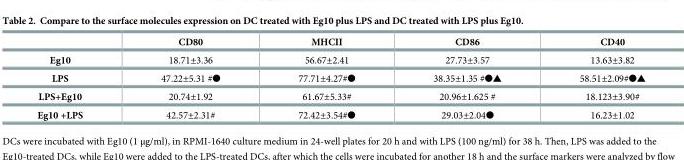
<table><thead><tr><td></td><td>CD80</td><td>MHCII</td><td>CD86</td><td>CD40</td></tr></thead><tbody><tr><td>Eg10</td><td>18.71±3.36</td><td>56.67±2.41</td><td>27.73±3.57</td><td>13.63±3.82</td></tr><tr><td>LPS</td><td>47.22±5.31 #●</td><td>77.71±4.27#●</td><td>38.35±1.35 #●▲</td><td>58.51±2.09#●▲</td></tr><tr><td>LPS+Eg10</td><td>20.74±1.92</td><td>61.67±5.33#</td><td>20.96±1.625 #</td><td>18.123±3.90#</td></tr><tr><td>Eg10 +LPS</td><td>42.57±2.31#</td><td>72.42±3.54#●</td><td>29.03±2.04●</td><td>16.23±1.02</td></tr></tbody></table>